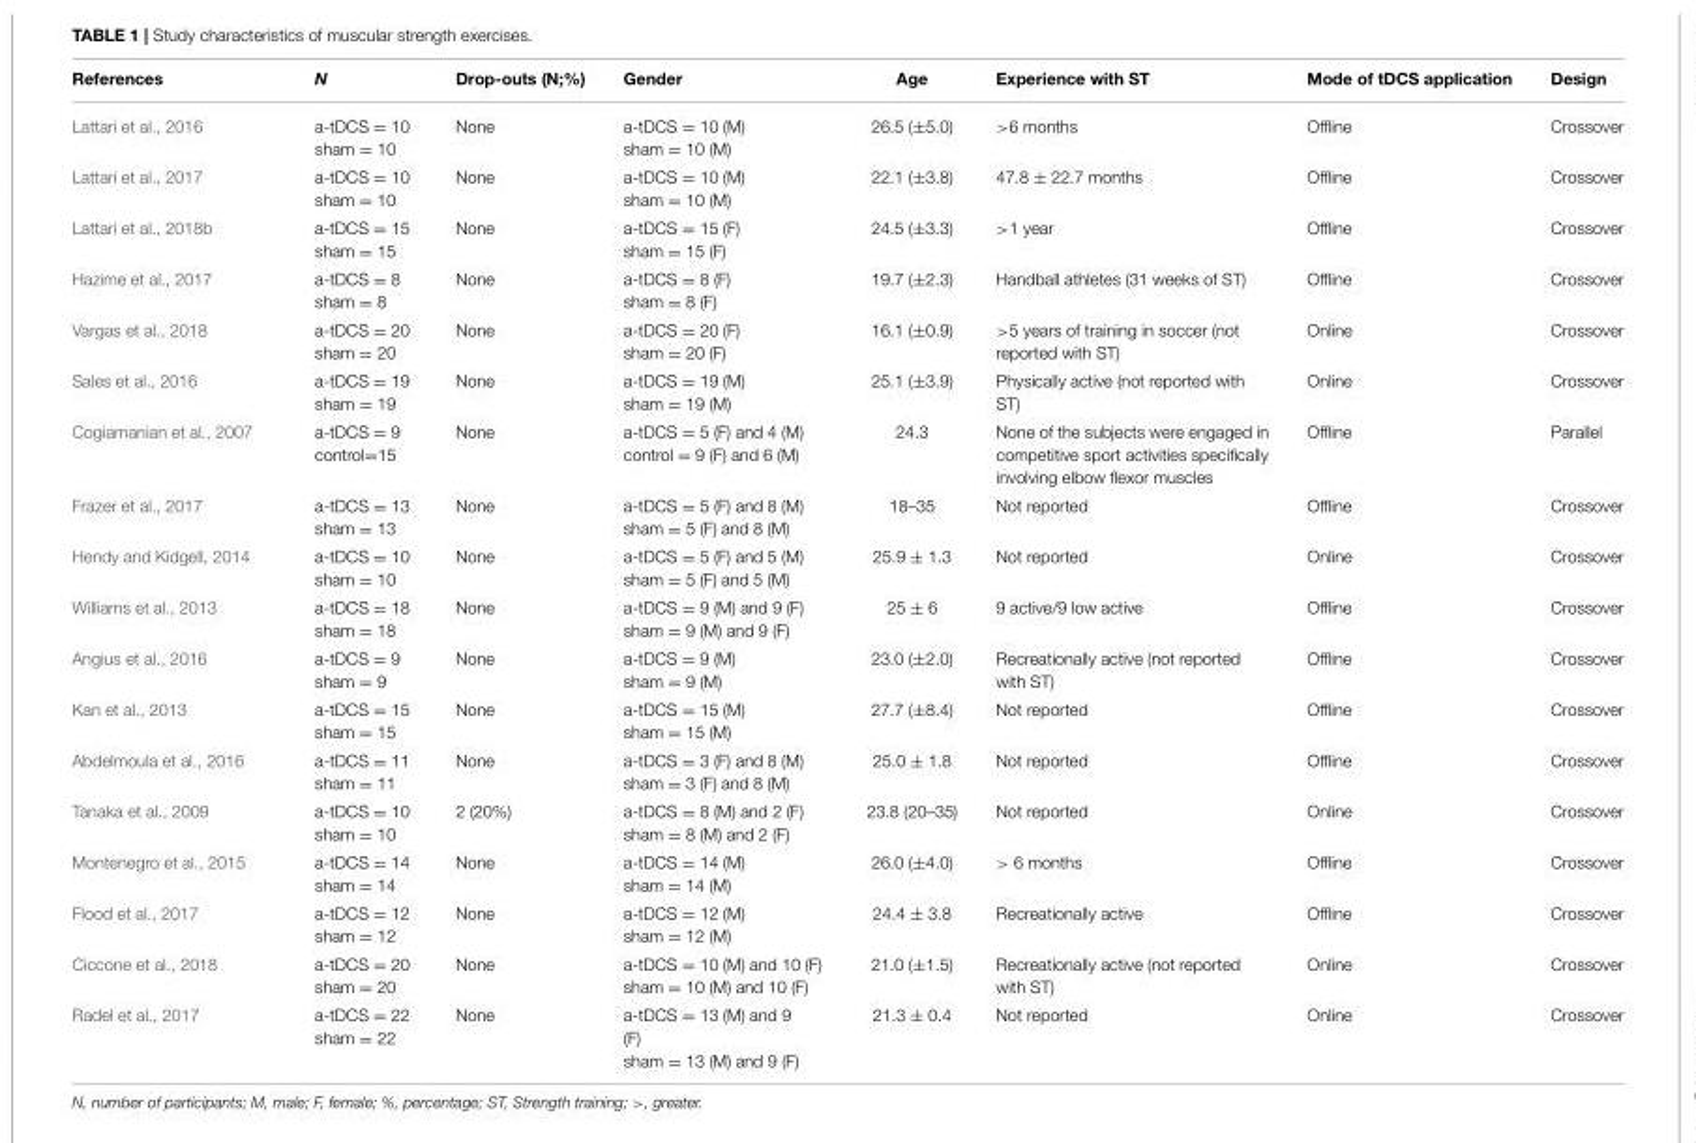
<table><thead><tr><td>References</td><td>N</td><td>Drop-outs (N;%)</td><td>Gender</td><td>Age</td><td>Experience with ST</td><td>Mode of tDCS application</td><td>Design</td></tr></thead><tbody><tr><td>Lattari et al., 2016</td><td>a-tDCS = 10 sham = 10</td><td>None</td><td>a-tDCS = 10 (M) sham = 10 (M)</td><td>26.5 (±5.0)</td><td>&gt;6 months</td><td>Offline</td><td>Crossover</td></tr><tr><td>Lattari et al., 2017</td><td>a-tDCS = 10 sham = 10</td><td>None</td><td>a-tDCS = 10 (M) sham = 10 (M)</td><td>22.1 (±3.8)</td><td>47.8 ± 22.7 months</td><td>Offline</td><td>Crossover</td></tr><tr><td>Lattari et al., 2018b</td><td>a-tDCS = 15 sham = 15</td><td>None</td><td>a-tDCS = 15 (F) sham = 15 (F)</td><td>24.5 (±3.3)</td><td>&gt;1 year</td><td>Offline</td><td>Crossover</td></tr><tr><td>Hazime et al., 2017</td><td>a-tDCS = 8 sham = 8</td><td>None</td><td>a-tDCS = 8 (F) sham = 8 (F)</td><td>19.7 (±2.3)</td><td>Handball athletes (31 weeks of ST)</td><td>Offline</td><td>Crossover</td></tr><tr><td>Vargas et al., 2018</td><td>a-tDCS = 20 sham = 20</td><td>None</td><td>a-tDCS = 20 (F) sham = 20 (F)</td><td>16.1 (±0.9)</td><td>&gt;5 years of training in soccer (not reported with ST)</td><td>Online</td><td>Crossover</td></tr><tr><td>Sales et al., 2016</td><td>a-tDCS = 19 sham = 19</td><td>None</td><td>a-tDCS = 19 (M) sham = 19 (M)</td><td>25.1 (±3.9)</td><td>Physically active (not reported with ST)</td><td>Online</td><td>Crossover</td></tr><tr><td>Cogiamanian et al., 2007</td><td>a-tDCS = 9 control=15</td><td>None</td><td>a-tDCS = 5 (F) and 4 (M) control = 9 (F) and 6 (M)</td><td>24.3</td><td>None of the subjects were engaged in competitive sport activities specifically involving elbow flexor muscles</td><td>Offline</td><td>Parallel</td></tr><tr><td>Frazer et al., 2017</td><td>a-tDCS = 13 sham = 13</td><td>None</td><td>a-tDCS = 5 (F) and 8 (M) sham = 5 (F) and 8 (M)</td><td>18–35</td><td>Not reported</td><td>Offline</td><td>Crossover</td></tr><tr><td>Hendy and Kidgell, 2014</td><td>a-tDCS = 10 sham = 10</td><td>None</td><td>a-tDCS = 5 (F) and 5 (M) sham = 5 (F) and 5 (M)</td><td>25.9 ± 1.3</td><td>Not reported</td><td>Online</td><td>Crossover</td></tr><tr><td>Williams et al., 2013</td><td>a-tDCS = 18 sham = 18</td><td>None</td><td>a-tDCS = 9 (M) and 9 (F) sham = 9 (M) and 9 (F)</td><td>25 ± 6</td><td>9 active/9 low active</td><td>Offline</td><td>Crossover</td></tr><tr><td>Angius et al., 2016</td><td>a-tDCS = 9 sham = 9</td><td>None</td><td>a-tDCS = 9 (M) sham = 9 (M)</td><td>23.0 (±2.0)</td><td>Recreationally active (not reported with ST)</td><td>Offline</td><td>Crossover</td></tr><tr><td>Kan et al., 2013</td><td>a-tDCS = 15 sham = 15</td><td>None</td><td>a-tDCS = 15 (M) sham = 15 (M)</td><td>27.7 (±8.4)</td><td>Not reported</td><td>Offline</td><td>Crossover</td></tr><tr><td>Abdelmoula et al., 2016</td><td>a-tDCS = 11 sham = 11</td><td>None</td><td>a-tDCS = 3 (F) and 8 (M) sham = 3 (F) and 8 (M)</td><td>25.0 ± 1.8</td><td>Not reported</td><td>Offline</td><td>Crossover</td></tr><tr><td>Tanaka et al., 2009</td><td>a-tDCS = 10 sham = 10</td><td>2 (20%)</td><td>a-tDCS = 8 (M) and 2 (F) sham = 8 (M) and 2 (F)</td><td>23.8 (20–35)</td><td>Not reported</td><td>Online</td><td>Crossover</td></tr><tr><td>Montenegro et al., 2015</td><td>a-tDCS = 14 sham = 14</td><td>None</td><td>a-tDCS = 14 (M) sham = 14 (M)</td><td>26.0 (±4.0)</td><td>&gt; 6 months</td><td>Offline</td><td>Crossover</td></tr><tr><td>Flood et al., 2017</td><td>a-tDCS = 12 sham = 12</td><td>None</td><td>a-tDCS = 12 (M) sham = 12 (M)</td><td>24.4 ± 3.8</td><td>Recreationally active</td><td>Offline</td><td>Crossover</td></tr><tr><td>Ciccone et al., 2018</td><td>a-tDCS = 20 sham = 20</td><td>None</td><td>a-tDCS = 10 (M) and 10 (F) sham = 10 (M) and 10 (F)</td><td>21.0 (±1.5)</td><td>Recreationally active (not reported with ST)</td><td>Online</td><td>Crossover</td></tr><tr><td>Radel et al., 2017</td><td>a-tDCS = 22 sham = 22</td><td>None</td><td>a-tDCS = 13 (M) and 9 (F) sham = 13 (M) and 9 (F)</td><td>21.3 ± 0.4</td><td>Not reported</td><td>Online</td><td>Crossover</td></tr></tbody></table>